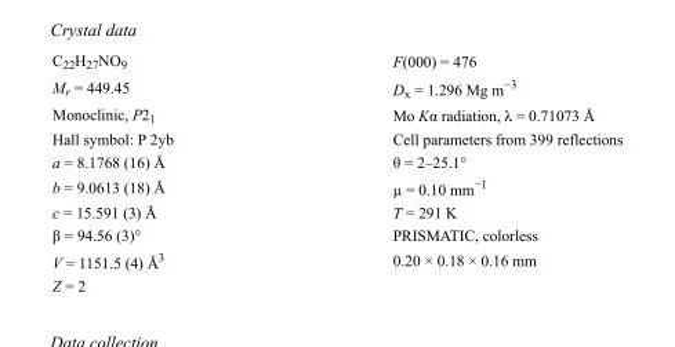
<table><tbody><tr><td>C<sub>22</sub>H<sub>27</sub>NO<sub>9</sub></td><td>F(000) = 476</td></tr><tr><td>M<sub>r</sub> = 449.45</td><td>D<sub>x</sub> = 1.296 Mg m<sup>−3</sup></td></tr><tr><td>Monoclinic, P2<sub>1</sub></td><td>Mo Kα radiation, λ = 0.71073 Å</td></tr><tr><td>Hall symbol: P 2yb</td><td>Cell parameters from 399 reflections</td></tr><tr><td>a = 8.1768 (16) Å</td><td>θ = 2–25.1°</td></tr><tr><td>b = 9.0613 (18) Å</td><td>µ = 0.10 mm<sup>−1</sup></td></tr><tr><td>c = 15.591 (3) Å</td><td>T = 291 K</td></tr><tr><td>β = 94.56 (3)°</td><td>PRISMATIC, colorless</td></tr><tr><td>V = 1151.5 (4) Å<sup>3</sup></td><td>0.20 × 0.18 × 0.16 mm</td></tr><tr><td>Z = 2</td><td></td></tr></tbody></table>